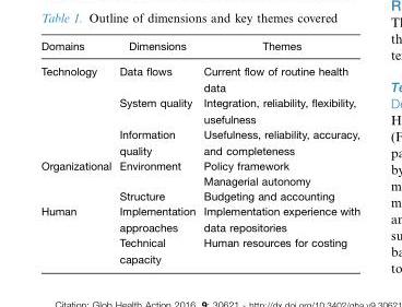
<table><thead><tr><td>Domains</td><td>Dimensions</td><td>Themes</td></tr></thead><tbody><tr><td rowspan="3">Technology</td><td>Data flows</td><td>Current flow of routine health data</td></tr><tr><td>System quality</td><td>Integration, reliability, flexibility, usefulness</td></tr><tr><td>Information quality</td><td>Usefulness, reliability, accuracy, and completeness</td></tr><tr><td rowspan="3">Organizational</td><td>Environment</td><td>Policy framework</td></tr><tr><td></td><td>Managerial autonomy</td></tr><tr><td>Structure</td><td>Budgeting and accounting</td></tr><tr><td rowspan="2">Human</td><td>Implementation approaches</td><td>Implementation experience with data repositories</td></tr><tr><td>Technical capacity</td><td>Human resources for costing</td></tr></tbody></table>